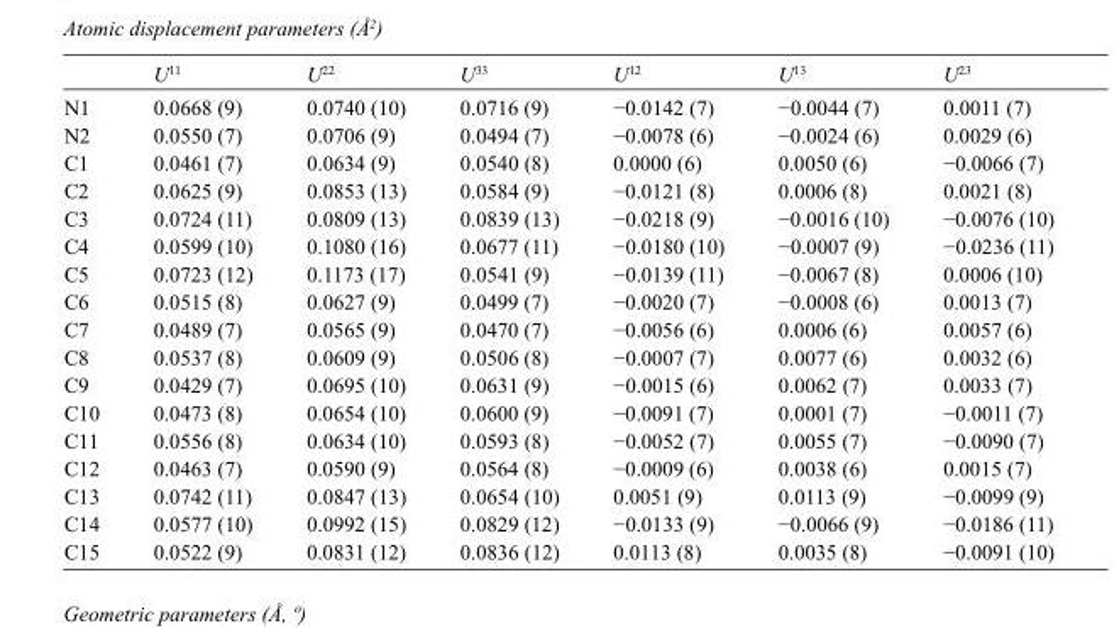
<table><thead><tr><td></td><td>U<sup>11</sup></td><td>U<sup>22</sup></td><td>U<sup>33</sup></td><td>U<sup>12</sup></td><td>U<sup>13</sup></td><td>U<sup>23</sup></td></tr></thead><tbody><tr><td>N1</td><td>0.0668 (9)</td><td>0.0740 (10)</td><td>0.0716 (9)</td><td>−0.0142 (7)</td><td>−0.0044 (7)</td><td>0.0011 (7)</td></tr><tr><td>N2</td><td>0.0550 (7)</td><td>0.0706 (9)</td><td>0.0494 (7)</td><td>−0.0078 (6)</td><td>−0.0024 (6)</td><td>0.0029 (6)</td></tr><tr><td>C1</td><td>0.0461 (7)</td><td>0.0634 (9)</td><td>0.0540 (8)</td><td>0.0000 (6)</td><td>0.0050 (6)</td><td>−0.0066 (7)</td></tr><tr><td>C2</td><td>0.0625 (9)</td><td>0.0853 (13)</td><td>0.0584 (9)</td><td>−0.0121 (8)</td><td>0.0006 (8)</td><td>0.0021 (8)</td></tr><tr><td>C3</td><td>0.0724 (11)</td><td>0.0809 (13)</td><td>0.0839 (13)</td><td>−0.0218 (9)</td><td>−0.0016 (10)</td><td>−0.0076 (10)</td></tr><tr><td>C4</td><td>0.0599 (10)</td><td>0.1080 (16)</td><td>0.0677 (11)</td><td>−0.0180 (10)</td><td>−0.0007 (9)</td><td>−0.0236 (11)</td></tr><tr><td>C5</td><td>0.0723 (12)</td><td>0.1173 (17)</td><td>0.0541 (9)</td><td>−0.0139 (11)</td><td>−0.0067 (8)</td><td>0.0006 (10)</td></tr><tr><td>C6</td><td>0.0515 (8)</td><td>0.0627 (9)</td><td>0.0499 (7)</td><td>−0.0020 (7)</td><td>−0.0008 (6)</td><td>0.0013 (7)</td></tr><tr><td>C7</td><td>0.0489 (7)</td><td>0.0565 (9)</td><td>0.0470 (7)</td><td>−0.0056 (6)</td><td>0.0006 (6)</td><td>0.0057 (6)</td></tr><tr><td>C8</td><td>0.0537 (8)</td><td>0.0609 (9)</td><td>0.0506 (8)</td><td>−0.0007 (7)</td><td>0.0077 (6)</td><td>0.0032 (6)</td></tr><tr><td>C9</td><td>0.0429 (7)</td><td>0.0695 (10)</td><td>0.0631 (9)</td><td>−0.0015 (6)</td><td>0.0062 (7)</td><td>0.0033 (7)</td></tr><tr><td>C10</td><td>0.0473 (8)</td><td>0.0654 (10)</td><td>0.0600 (9)</td><td>−0.0091 (7)</td><td>0.0001 (7)</td><td>−0.0011 (7)</td></tr><tr><td>C11</td><td>0.0556 (8)</td><td>0.0634 (10)</td><td>0.0593 (8)</td><td>−0.0052 (7)</td><td>0.0055 (7)</td><td>−0.0090 (7)</td></tr><tr><td>C12</td><td>0.0463 (7)</td><td>0.0590 (9)</td><td>0.0564 (8)</td><td>−0.0009 (6)</td><td>0.0038 (6)</td><td>0.0015 (7)</td></tr><tr><td>C13</td><td>0.0742 (11)</td><td>0.0847 (13)</td><td>0.0654 (10)</td><td>0.0051 (9)</td><td>0.0113 (9)</td><td>−0.0099 (9)</td></tr><tr><td>C14</td><td>0.0577 (10)</td><td>0.0992 (15)</td><td>0.0829 (12)</td><td>−0.0133 (9)</td><td>−0.0066 (9)</td><td>−0.0186 (11)</td></tr><tr><td>C15</td><td>0.0522 (9)</td><td>0.0831 (12)</td><td>0.0836 (12)</td><td>0.0113 (8)</td><td>0.0035 (8)</td><td>−0.0091 (10)</td></tr></tbody></table>